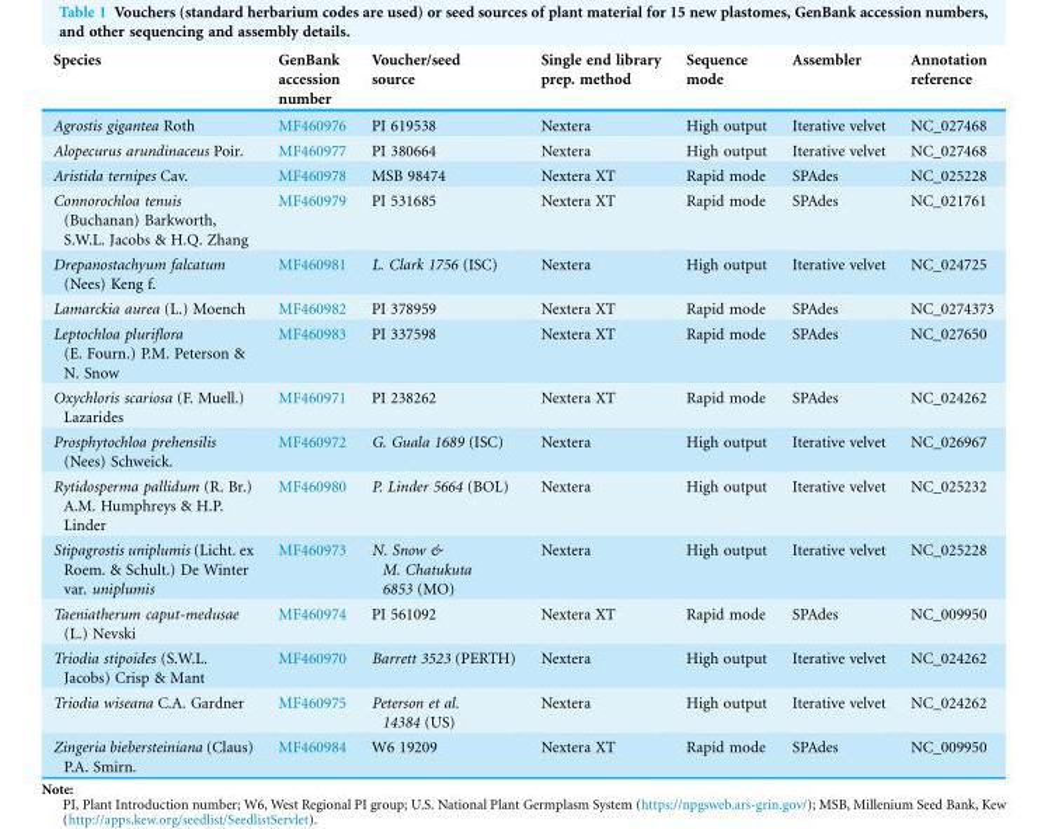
<table><thead><tr><td>Species</td><td>GenBank accession number</td><td>Voucher/seed source</td><td>Single end library prep. method</td><td>Sequence mode</td><td>Assembler</td><td>Annotation reference</td></tr></thead><tbody><tr><td>Agrostis gigantea Roth</td><td>MF460976</td><td>PI 619538</td><td>Nextera</td><td>High output</td><td>Iterative velvet</td><td>NC_027468</td></tr><tr><td>Alopecurus arundinaceus Poir.</td><td>MF460977</td><td>PI 380664</td><td>Nextera</td><td>High output</td><td>Iterative velvet</td><td>NC_027468</td></tr><tr><td>Aristida ternipes Cav.</td><td>MF460978</td><td>MSB 98474</td><td>Nextera XT</td><td>Rapid mode</td><td>SPAdes</td><td>NC_025228</td></tr><tr><td>Connorochloa tenuis (Buchanan) Barkworth, S.W.L. Jacobs &amp; H.Q. Zhang</td><td>MF460979</td><td>PI 531685</td><td>Nextera XT</td><td>Rapid mode</td><td>SPAdes</td><td>NC_021761</td></tr><tr><td>Drepanostachyum falcatum (Nees) Keng f.</td><td>MF460981</td><td>L. Clark 1756 (ISC)</td><td>Nextera</td><td>High output</td><td>Iterative velvet</td><td>NC_024725</td></tr><tr><td>Lamarckia aurea (L.) Moench</td><td>MF460982</td><td>PI 378959</td><td>Nextera XT</td><td>Rapid mode</td><td>SPAdes</td><td>NC_0274373</td></tr><tr><td>Leptochloa pluriflora (E. Fourn.) P.M. Peterson &amp; N. Snow</td><td>MF460983</td><td>PI 337598</td><td>Nextera XT</td><td>Rapid mode</td><td>SPAdes</td><td>NC_027650</td></tr><tr><td>Oxychloris scariosa (F. Muell.) Lazarides</td><td>MF460971</td><td>PI 238262</td><td>Nextera XT</td><td>Rapid mode</td><td>SPAdes</td><td>NC_024262</td></tr><tr><td>Prosphytochloa prehensilis (Nees) Schweick.</td><td>MF460972</td><td>G. Guala 1689 (ISC)</td><td>Nextera</td><td>High output</td><td>Iterative velvet</td><td>NC_026967</td></tr><tr><td>Rytidosperma pallidum (R. Br.) A.M. Humphreys &amp; H.P. Linder</td><td>MF460980</td><td>P. Linder 5664 (BOL)</td><td>Nextera</td><td>High output</td><td>Iterative velvet</td><td>NC_025232</td></tr><tr><td>Stipagrostis uniplumis (Licht. ex Roem. &amp; Schult.) De Winter var. uniplumis</td><td>MF460973</td><td>N. Snow &amp; M. Chatukuta 6853 (MO)</td><td>Nextera</td><td>High output</td><td>Iterative velvet</td><td>NC_025228</td></tr><tr><td>Taeniatherum caput-medusae (L.) Nevski</td><td>MF460974</td><td>PI 561092</td><td>Nextera XT</td><td>Rapid mode</td><td>SPAdes</td><td>NC_009950</td></tr><tr><td>Triodia stipoides (S.W.L. Jacobs) Crisp &amp; Mant</td><td>MF460970</td><td>Barrett 3523 (PERTH)</td><td>Nextera</td><td>High output</td><td>Iterative velvet</td><td>NC_024262</td></tr><tr><td>Triodia wiseana C.A. Gardner</td><td>MF460975</td><td>Peterson et al. 14384 (US)</td><td>Nextera</td><td>High output</td><td>Iterative velvet</td><td>NC_024262</td></tr><tr><td>Zingeria biebersteiniana (Claus) P.A. Smirn.</td><td>MF460984</td><td>W6 19209</td><td>Nextera XT</td><td>Rapid mode</td><td>SPAdes</td><td>NC_009950</td></tr></tbody></table>